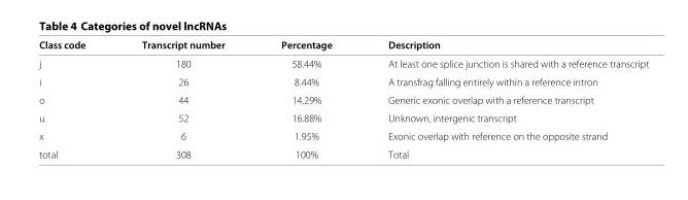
<table><thead><tr><td>Class code</td><td>Transcript number</td><td>Percentage</td><td>Description</td></tr></thead><tbody><tr><td>j</td><td>180</td><td>58.44%</td><td>At least one splice junction is shared with a reference transcript</td></tr><tr><td>i</td><td>26</td><td>8.44%</td><td>A transfrag falling entirely within a reference intron</td></tr><tr><td>o</td><td>44</td><td>14.29%</td><td>Generic exonic overlap with a reference transcript</td></tr><tr><td>u</td><td>52</td><td>16.88%</td><td>Unknown, intergenic transcript</td></tr><tr><td>x</td><td>6</td><td>1.95%</td><td>Exonic overlap with reference on the opposite strand</td></tr><tr><td>total</td><td>308</td><td>100%</td><td>Total</td></tr></tbody></table>